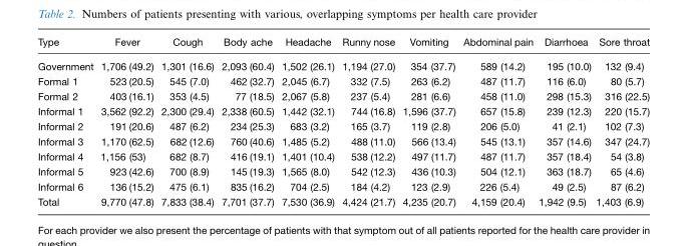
<table><thead><tr><td>Type</td><td>Fever</td><td>Cough</td><td>Body ache</td><td>Headache</td><td>Runny nose</td><td>Vomiting</td><td>Abdominal pain</td><td>Diarrhoea</td><td>Sore throat</td></tr></thead><tbody><tr><td>Government</td><td>1,706 (49.2)</td><td>1,301 (16.6)</td><td>2,093 (60.4)</td><td>1,502 (26.1)</td><td>1,194 (27.0)</td><td>354 (37.7)</td><td>589 (14.2)</td><td>195 (10.0)</td><td>132 (9.4)</td></tr><tr><td>Formal 1</td><td>523 (20.5)</td><td>545 (7.0)</td><td>462 (32.7)</td><td>2,045 (6.7)</td><td>332 (7.5)</td><td>263 (6.2)</td><td>487 (11.7)</td><td>116 (6.0)</td><td>80 (5.7)</td></tr><tr><td>Formal 2</td><td>403 (16.1)</td><td>353 (4.5)</td><td>77 (18.5)</td><td>2,067 (5.8)</td><td>237 (5.4)</td><td>281 (6.6)</td><td>458 (11.0)</td><td>298 (15.3)</td><td>316 (22.5)</td></tr><tr><td>Informal 1</td><td>3,562 (92.2)</td><td>2,300 (29.4)</td><td>2,338 (60.5)</td><td>1,442 (32.1)</td><td>744 (16.8)</td><td>1,596 (37.7)</td><td>657 (15.8)</td><td>239 (12.3)</td><td>220 (15.7)</td></tr><tr><td>Informal 2</td><td>191 (20.6)</td><td>487 (6.2)</td><td>234 (25.3)</td><td>683 (3.2)</td><td>165 (3.7)</td><td>119 (2.8)</td><td>206 (5.0)</td><td>41 (2.1)</td><td>102 (7.3)</td></tr><tr><td>Informal 3</td><td>1,170 (62.5)</td><td>682 (12.6)</td><td>760 (40.6)</td><td>1,485 (5.2)</td><td>488 (11.0)</td><td>566 (13.4)</td><td>545 (13.1)</td><td>357 (14.6)</td><td>347 (24.7)</td></tr><tr><td>Informal 4</td><td>1,156 (53)</td><td>682 (8.7)</td><td>416 (19.1)</td><td>1,401 (10.4)</td><td>538 (12.2)</td><td>497 (11.7)</td><td>487 (11.7)</td><td>357 (18.4)</td><td>54 (3.8)</td></tr><tr><td>Informal 5</td><td>923 (42.6)</td><td>700 (8.9)</td><td>145 (19.3)</td><td>1,565 (8.0)</td><td>542 (12.3)</td><td>436 (10.3)</td><td>504 (12.1)</td><td>363 (18.7)</td><td>65 (4.6)</td></tr><tr><td>Informal 6</td><td>136 (15.2)</td><td>475 (6.1)</td><td>835 (16.2)</td><td>704 (2.5)</td><td>184 (4.2)</td><td>123 (2.9)</td><td>226 (5.4)</td><td>49 (2.5)</td><td>87 (6.2)</td></tr><tr><td>Total</td><td>9,770 (47.8)</td><td>7,833 (38.4)</td><td>7,701 (37.7)</td><td>7,530 (36.9)</td><td>4,424 (21.7)</td><td>4,235 (20.7)</td><td>4,159 (20.4)</td><td>1,942 (9.5)</td><td>1,403 (6.9)</td></tr></tbody></table>